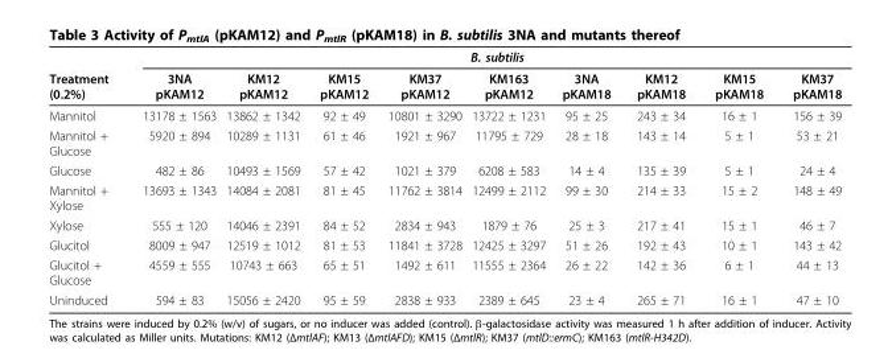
<table><thead><tr><td rowspan="2">Treatment (0.2%)</td><td colspan="9">B. subtilis</td></tr><tr><td>3NA pKAM12</td><td>KM12 pKAM12</td><td>KM15 pKAM12</td><td>KM37 pKAM12</td><td>KM163 pKAM12</td><td>3NA pKAM18</td><td>KM12 pKAM18</td><td>KM15 pKAM18</td><td>KM37 pKAM18</td></tr></thead><tbody><tr><td>Mannitol</td><td>13178 ± 1563</td><td>13862 ± 1342</td><td>92 ± 49</td><td>10801 ± 3290</td><td>13722 ± 1231</td><td>95 ± 25</td><td>243 ± 34</td><td>16 ± 1</td><td>156 ± 39</td></tr><tr><td>Mannitol + Glucose</td><td>5920 ± 894</td><td>10289 ± 1131</td><td>61 ± 46</td><td>1921 ± 967</td><td>11795 ± 729</td><td>28 ± 18</td><td>143 ± 14</td><td>5 ± 1</td><td>53 ± 21</td></tr><tr><td>Glucose</td><td>482 ± 86</td><td>10493 ± 1569</td><td>57 ± 42</td><td>1021 ± 379</td><td>6208 ± 583</td><td>14 ± 4</td><td>135 ± 39</td><td>5 ± 1</td><td>24 ± 4</td></tr><tr><td>Mannitol + Xylose</td><td>13693 ± 1343</td><td>14084 ± 2081</td><td>81 ± 45</td><td>11762 ± 3814</td><td>12499 ± 2112</td><td>99 ± 30</td><td>214 ± 33</td><td>15 ± 2</td><td>148 ± 49</td></tr><tr><td>Xylose</td><td>555 ± 120</td><td>14046 ± 2391</td><td>84 ± 52</td><td>2834 ± 943</td><td>1879 ± 76</td><td>25 ± 3</td><td>217 ± 41</td><td>15 ± 1</td><td>46 ± 7</td></tr><tr><td>Glucitol</td><td>8009 ± 947</td><td>12519 ± 1012</td><td>81 ± 53</td><td>11841 ± 3728</td><td>12425 ± 3297</td><td>51 ± 26</td><td>192 ± 43</td><td>10 ± 1</td><td>143 ± 42</td></tr><tr><td>Glucitol + Glucose</td><td>4559 ± 555</td><td>10743 ± 663</td><td>65 ± 51</td><td>1492 ± 611</td><td>11555 ± 2364</td><td>26 ± 22</td><td>142 ± 36</td><td>6 ± 1</td><td>44 ± 13</td></tr><tr><td>Uninduced</td><td>594 ± 83</td><td>15056 ± 2420</td><td>95 ± 59</td><td>2838 ± 933</td><td>2389 ± 645</td><td>23 ± 4</td><td>265 ± 71</td><td>16 ± 1</td><td>47 ± 10</td></tr></tbody></table>